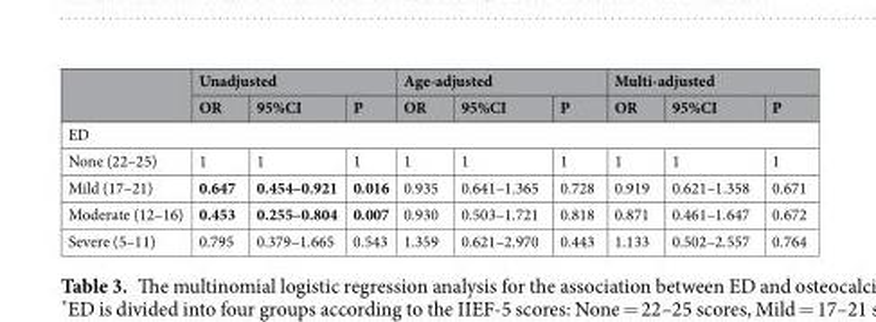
<table><thead><tr><td rowspan="2"></td><td colspan="3">Unadjusted</td><td colspan="3">Age-adjusted</td><td colspan="3">Multi-adjusted</td></tr><tr><td>OR</td><td>95%CI</td><td>P</td><td>OR</td><td>95%CI</td><td>P</td><td>OR</td><td>95%CI</td><td>P</td></tr></thead><tbody><tr><td colspan="10">ED</td></tr><tr><td>None (22–25)</td><td>1</td><td>1</td><td>1</td><td>1</td><td>1</td><td>1</td><td>1</td><td>1</td><td>1</td></tr><tr><td>Mild (17–21)</td><td>0.647</td><td>0.454–0.921</td><td>0.016</td><td>0.935</td><td>0.641–1.365</td><td>0.728</td><td>0.919</td><td>0.621–1.358</td><td>0.671</td></tr><tr><td>Moderate (12–16)</td><td>0.453</td><td>0.255–0.804</td><td>0.007</td><td>0.930</td><td>0.503–1.721</td><td>0.818</td><td>0.871</td><td>0.461–1.647</td><td>0.672</td></tr><tr><td>Severe (5–11)</td><td>0.795</td><td>0.379–1.665</td><td>0.543</td><td>1.359</td><td>0.621–2.970</td><td>0.443</td><td>1.133</td><td>0.502–2.557</td><td>0.764</td></tr></tbody></table>